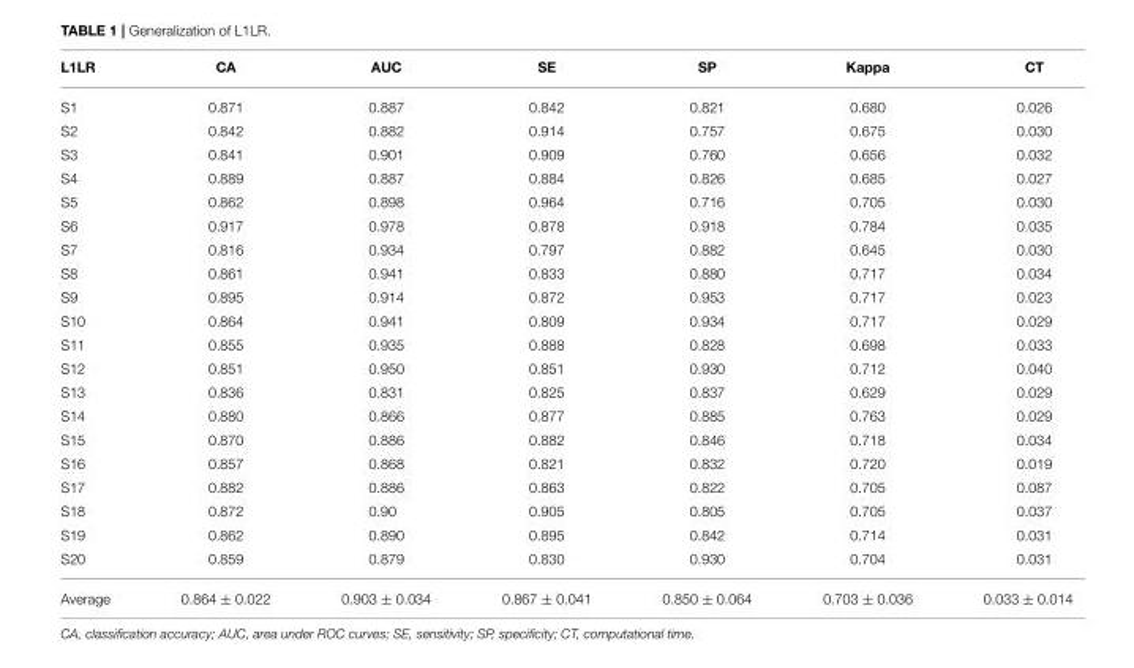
<table><thead><tr><td>L1LR</td><td>CA</td><td>AUC</td><td>SE</td><td>SP</td><td>Kappa</td><td>CT</td></tr></thead><tbody><tr><td>S1</td><td>0.871</td><td>0.887</td><td>0.842</td><td>0.821</td><td>0.680</td><td>0.026</td></tr><tr><td>S2</td><td>0.842</td><td>0.882</td><td>0.914</td><td>0.757</td><td>0.675</td><td>0.030</td></tr><tr><td>S3</td><td>0.841</td><td>0.901</td><td>0.909</td><td>0.760</td><td>0.656</td><td>0.032</td></tr><tr><td>S4</td><td>0.889</td><td>0.887</td><td>0.884</td><td>0.826</td><td>0.685</td><td>0.027</td></tr><tr><td>S5</td><td>0.862</td><td>0.898</td><td>0.964</td><td>0.716</td><td>0.705</td><td>0.030</td></tr><tr><td>S6</td><td>0.917</td><td>0.978</td><td>0.878</td><td>0.918</td><td>0.784</td><td>0.035</td></tr><tr><td>S7</td><td>0.816</td><td>0.934</td><td>0.797</td><td>0.882</td><td>0.645</td><td>0.030</td></tr><tr><td>S8</td><td>0.861</td><td>0.941</td><td>0.833</td><td>0.880</td><td>0.717</td><td>0.034</td></tr><tr><td>S9</td><td>0.895</td><td>0.914</td><td>0.872</td><td>0.953</td><td>0.717</td><td>0.023</td></tr><tr><td>S10</td><td>0.864</td><td>0.941</td><td>0.809</td><td>0.934</td><td>0.717</td><td>0.029</td></tr><tr><td>S11</td><td>0.855</td><td>0.935</td><td>0.888</td><td>0.828</td><td>0.698</td><td>0.033</td></tr><tr><td>S12</td><td>0.851</td><td>0.950</td><td>0.851</td><td>0.930</td><td>0.712</td><td>0.040</td></tr><tr><td>S13</td><td>0.836</td><td>0.831</td><td>0.825</td><td>0.837</td><td>0.629</td><td>0.029</td></tr><tr><td>S14</td><td>0.880</td><td>0.866</td><td>0.877</td><td>0.885</td><td>0.763</td><td>0.029</td></tr><tr><td>S15</td><td>0.870</td><td>0.886</td><td>0.882</td><td>0.846</td><td>0.718</td><td>0.034</td></tr><tr><td>S16</td><td>0.857</td><td>0.868</td><td>0.821</td><td>0.832</td><td>0.720</td><td>0.019</td></tr><tr><td>S17</td><td>0.882</td><td>0.886</td><td>0.863</td><td>0.822</td><td>0.705</td><td>0.087</td></tr><tr><td>S18</td><td>0.872</td><td>0.90</td><td>0.905</td><td>0.805</td><td>0.705</td><td>0.037</td></tr><tr><td>S19</td><td>0.862</td><td>0.890</td><td>0.895</td><td>0.842</td><td>0.714</td><td>0.031</td></tr><tr><td>S20</td><td>0.859</td><td>0.879</td><td>0.830</td><td>0.930</td><td>0.704</td><td>0.031</td></tr><tr><td>Average</td><td>0.864 ± 0.022</td><td>0.903 ± 0.034</td><td>0.867 ± 0.041</td><td>0.850 ± 0.064</td><td>0.703 ± 0.036</td><td>0.033 ± 0.014</td></tr></tbody></table>